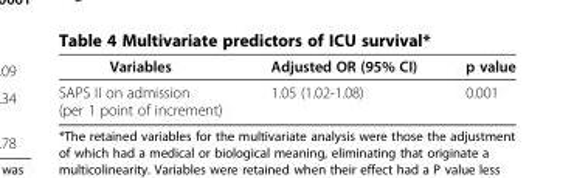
<table><thead><tr><td>Variables</td><td>Adjusted OR (95% CI)</td><td>p value</td></tr></thead><tbody><tr><td>SAPS II on admission (per 1 point of increment)</td><td>1.05 (1.02-1.08)</td><td>0.001</td></tr></tbody></table>